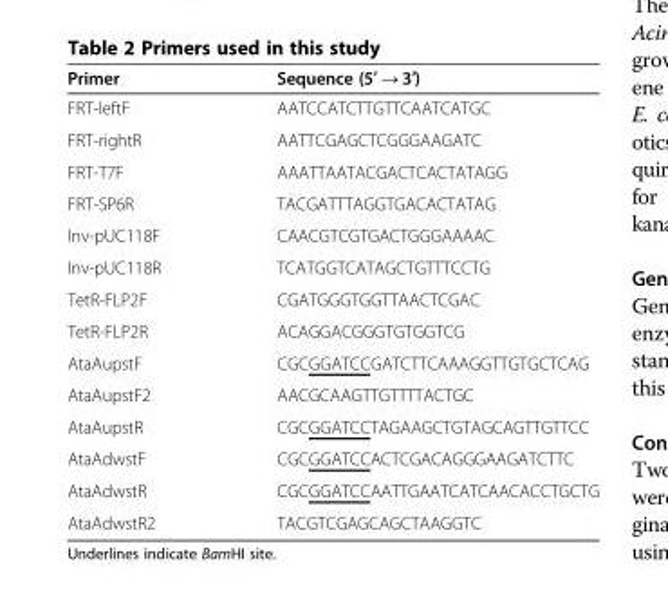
<table><thead><tr><td>Primer</td><td>Sequence (5′ → 3′)</td></tr></thead><tbody><tr><td>FRT-leftF</td><td>AATCCATCTTGTTCAATCATGC</td></tr><tr><td>FRT-rightR</td><td>AATTCGAGCTCGGGAAGATC</td></tr><tr><td>FRT-T7F</td><td>AAATTAATACGACTCACTATAGG</td></tr><tr><td>FRT-SP6R</td><td>TACGATTTAGGTGACACTATAG</td></tr><tr><td>Inv-pUC118F</td><td>CAACGTCGTGACTGGGAAAAC</td></tr><tr><td>Inv-pUC118R</td><td>TCATGGTCATAGCTGTTTCCTG</td></tr><tr><td>TetR-FLP2F</td><td>CGATGGGTGGTTAACTCGAC</td></tr><tr><td>TetR-FLP2R</td><td>ACAGGACGGGTGTGGTCG</td></tr><tr><td>AtaAupstF</td><td>CGCGGATCCGATCTTCAAAGGTTGTGCTCAG</td></tr><tr><td>AtaAupstF2</td><td>AACGCAAGTTGTTTTACTGC</td></tr><tr><td>AtaAupstR</td><td>CGCGGATCCTAGAAGCTGTAGCAGTTGTTCC</td></tr><tr><td>AtaAdwstF</td><td>CGCGGATCCACTCGACAGGGAAGATCTTC</td></tr><tr><td>AtaAdwstR</td><td>CGCGGATCCAATTGAATCATCAACACCTGCTG</td></tr><tr><td>AtaAdwstR2</td><td>TACGTCGAGCAGCTAAGGTC</td></tr></tbody></table>